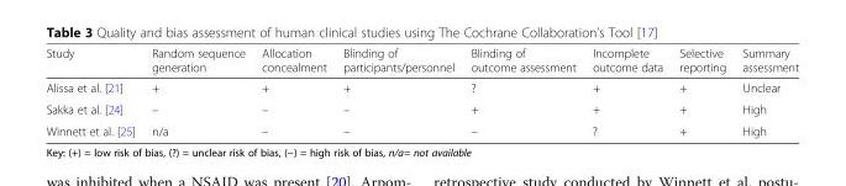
<table><thead><tr><td>Study</td><td>Random sequence generation</td><td>Allocation concealment</td><td>Blinding of participants/personnel</td><td>Blinding of outcome assessment</td><td>Incomplete outcome data</td><td>Selective reporting</td><td>Summary assessment</td></tr></thead><tbody><tr><td>Alissa et al. [21]</td><td>+</td><td>+</td><td>+</td><td>?</td><td>+</td><td>+</td><td>Unclear</td></tr><tr><td>Sakka et al. [24]</td><td>–</td><td>–</td><td>–</td><td>+</td><td>+</td><td>+</td><td>High</td></tr><tr><td>Winnett et al. [25]</td><td>n/a</td><td>–</td><td>–</td><td>–</td><td>?</td><td>+</td><td>High</td></tr></tbody></table>